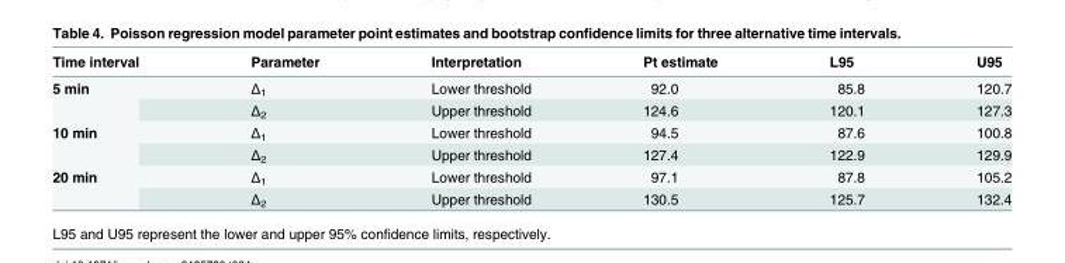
<table><thead><tr><td>Time interval</td><td>Parameter</td><td>Interpretation</td><td>Pt estimate</td><td>L95</td><td>U95</td></tr></thead><tbody><tr><td rowspan="2">5 min</td><td>Δ<sub>1</sub></td><td>Lower threshold</td><td>92.0</td><td>85.8</td><td>120.7</td></tr><tr><td>Δ<sub>2</sub></td><td>Upper threshold</td><td>124.6</td><td>120.1</td><td>127.3</td></tr><tr><td rowspan="2">10 min</td><td>Δ<sub>1</sub></td><td>Lower threshold</td><td>94.5</td><td>87.6</td><td>100.8</td></tr><tr><td>Δ<sub>2</sub></td><td>Upper threshold</td><td>127.4</td><td>122.9</td><td>129.9</td></tr><tr><td rowspan="2">20 min</td><td>Δ<sub>1</sub></td><td>Lower threshold</td><td>97.1</td><td>87.8</td><td>105.2</td></tr><tr><td>Δ<sub>2</sub></td><td>Upper threshold</td><td>130.5</td><td>125.7</td><td>132.4</td></tr></tbody></table>